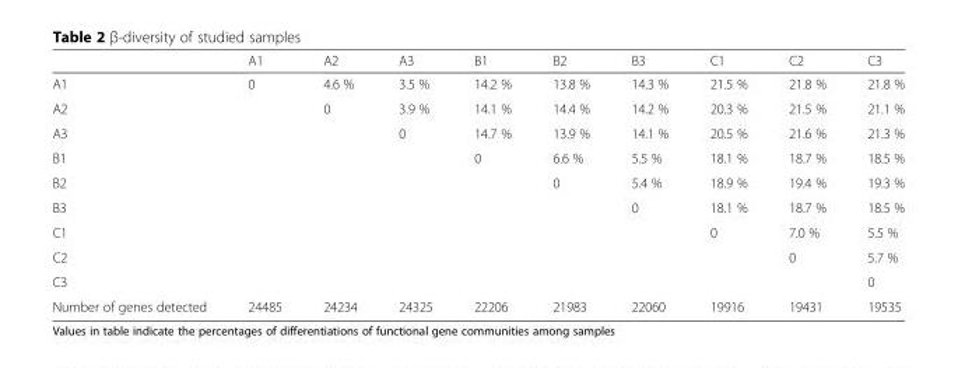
<table><thead><tr><td></td><td>A1</td><td>A2</td><td>A3</td><td>B1</td><td>B2</td><td>B3</td><td>C1</td><td>C2</td><td>C3</td></tr></thead><tbody><tr><td>A1</td><td>0</td><td>4.6 %</td><td>3.5 %</td><td>14.2 %</td><td>13.8 %</td><td>14.3 %</td><td>21.5 %</td><td>21.8 %</td><td>21.8 %</td></tr><tr><td>A2</td><td></td><td>0</td><td>3.9 %</td><td>14.1 %</td><td>14.4 %</td><td>14.2 %</td><td>20.3 %</td><td>21.5 %</td><td>21.1 %</td></tr><tr><td>A3</td><td></td><td></td><td>0</td><td>14.7 %</td><td>13.9 %</td><td>14.1 %</td><td>20.5 %</td><td>21.6 %</td><td>21.3 %</td></tr><tr><td>B1</td><td></td><td></td><td></td><td>0</td><td>6.6 %</td><td>5.5 %</td><td>18.1 %</td><td>18.7 %</td><td>18.5 %</td></tr><tr><td>B2</td><td></td><td></td><td></td><td></td><td>0</td><td>5.4 %</td><td>18.9 %</td><td>19.4 %</td><td>19.3 %</td></tr><tr><td>B3</td><td></td><td></td><td></td><td></td><td></td><td>0</td><td>18.1 %</td><td>18.7 %</td><td>18.5 %</td></tr><tr><td>C1</td><td></td><td></td><td></td><td></td><td></td><td></td><td>0</td><td>7.0 %</td><td>5.5 %</td></tr><tr><td>C2</td><td></td><td></td><td></td><td></td><td></td><td></td><td></td><td>0</td><td>5.7 %</td></tr><tr><td>C3</td><td></td><td></td><td></td><td></td><td></td><td></td><td></td><td></td><td>0</td></tr><tr><td>Number of genes detected</td><td>24485</td><td>24234</td><td>24325</td><td>22206</td><td>21983</td><td>22060</td><td>19916</td><td>19431</td><td>19535</td></tr></tbody></table>